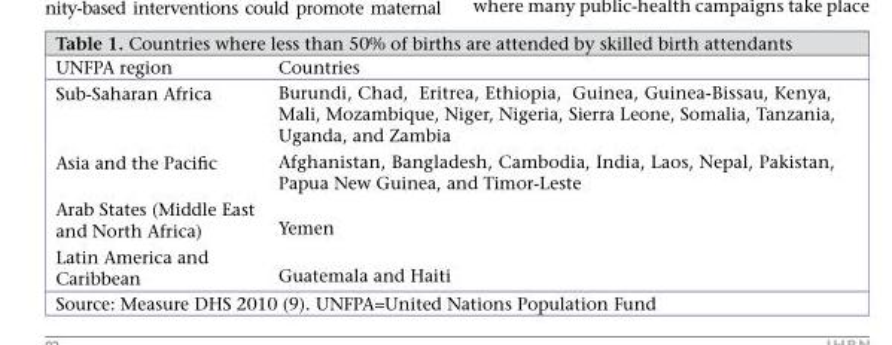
<table><thead><tr><td>UNFPA region</td><td>Countries</td></tr></thead><tbody><tr><td>Sub-Saharan Africa</td><td>Burundi, Chad, Eritrea, Ethiopia, Guinea, Guinea-Bissau, Kenya, Mali, Mozambique, Niger, Nigeria, Sierra Leone, Somalia, Tanzania, Uganda, and Zambia</td></tr><tr><td>Asia and the Pacific</td><td>Afghanistan, Bangladesh, Cambodia, India, Laos, Nepal, Pakistan, Papua New Guinea, and Timor-Leste</td></tr><tr><td>Arab States (Middle East and North Africa)</td><td>Yemen</td></tr><tr><td>Latin America and Caribbean</td><td>Guatemala and Haiti</td></tr></tbody></table>